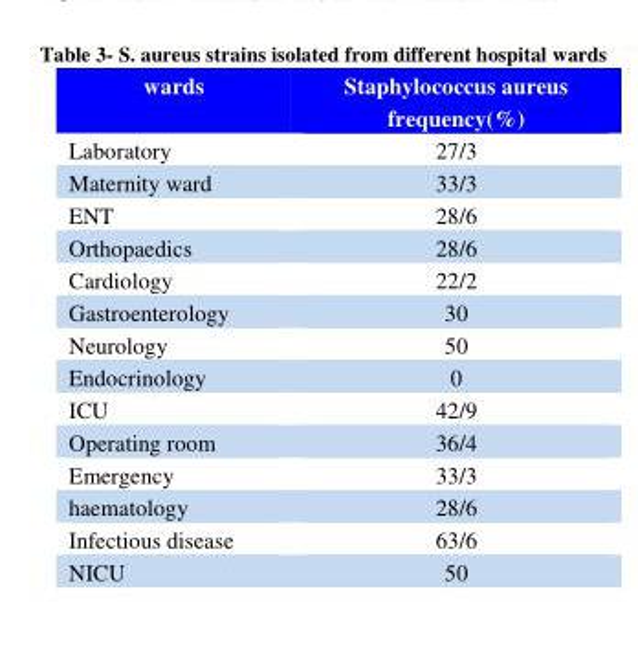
<table><thead><tr><td>wards</td><td>Staphylococcus aureus frequency(%)</td></tr></thead><tbody><tr><td>Laboratory</td><td>27/3</td></tr><tr><td>Maternity ward</td><td>33/3</td></tr><tr><td>ENT</td><td>28/6</td></tr><tr><td>Orthopaedics</td><td>28/6</td></tr><tr><td>Cardiology</td><td>22/2</td></tr><tr><td>Gastroenterology</td><td>30</td></tr><tr><td>Neurology</td><td>50</td></tr><tr><td>Endocrinology</td><td>0</td></tr><tr><td>ICU</td><td>42/9</td></tr><tr><td>Operating room</td><td>36/4</td></tr><tr><td>Emergency</td><td>33/3</td></tr><tr><td>haematology</td><td>28/6</td></tr><tr><td>Infectious disease</td><td>63/6</td></tr><tr><td>NICU</td><td>50</td></tr></tbody></table>